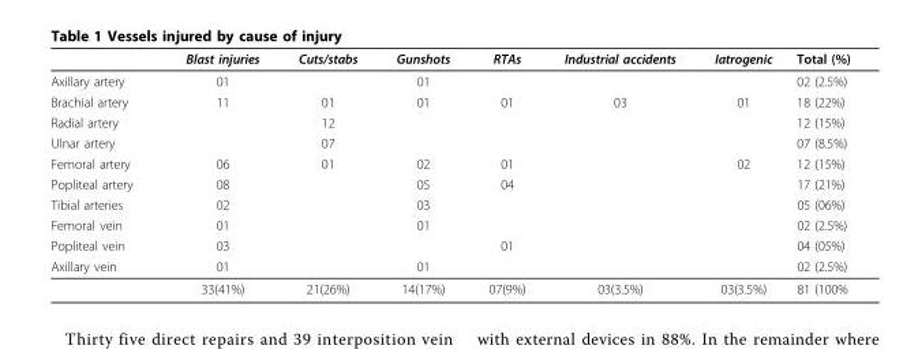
<table><thead><tr><td></td><td>Blast injuries</td><td>Cuts/stabs</td><td>Gunshots</td><td>RTAs</td><td>Industrial accidents</td><td>Iatrogenic</td><td>Total (%)</td></tr></thead><tbody><tr><td>Axillary artery</td><td>01</td><td></td><td>01</td><td></td><td></td><td></td><td>02 (2.5%)</td></tr><tr><td>Brachial artery</td><td>11</td><td>01</td><td>01</td><td>01</td><td>03</td><td>01</td><td>18 (22%)</td></tr><tr><td>Radial artery</td><td></td><td>12</td><td></td><td></td><td></td><td></td><td>12 (15%)</td></tr><tr><td>Ulnar artery</td><td></td><td>07</td><td></td><td></td><td></td><td></td><td>07 (8.5%)</td></tr><tr><td>Femoral artery</td><td>06</td><td>01</td><td>02</td><td>01</td><td></td><td>02</td><td>12 (15%)</td></tr><tr><td>Popliteal artery</td><td>08</td><td></td><td>05</td><td>04</td><td></td><td></td><td>17 (21%)</td></tr><tr><td>Tibial arteries</td><td>02</td><td></td><td>03</td><td></td><td></td><td></td><td>05 (06%)</td></tr><tr><td>Femoral vein</td><td>01</td><td></td><td>01</td><td></td><td></td><td></td><td>02 (2.5%)</td></tr><tr><td>Popliteal vein</td><td>03</td><td></td><td></td><td>01</td><td></td><td></td><td>04 (05%)</td></tr><tr><td rowspan="2">Axillary vein</td><td>01</td><td></td><td>01</td><td></td><td></td><td></td><td>02 (2.5%)</td></tr><tr><td>33(41%)</td><td>21(26%)</td><td>14(17%)</td><td>07(9%)</td><td>03(3.5%)</td><td>03(3.5%)</td><td>81 (100%</td></tr></tbody></table>